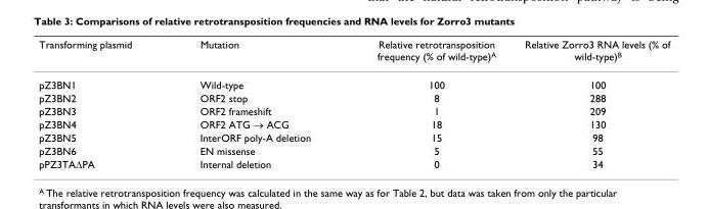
<table><thead><tr><td>Transforming plasmid</td><td>Mutation</td><td>Relative retrotransposition frequency (% of wild-type)<sup>A</sup></td><td>Relative Zorro3 RNA levels (% of wild-type)<sup>B</sup></td></tr></thead><tbody><tr><td>pZ3BN1</td><td>Wild-type</td><td>100</td><td>100</td></tr><tr><td>pZ3BN2</td><td>ORF2 stop</td><td>8</td><td>288</td></tr><tr><td>pZ3BN3</td><td>ORF2 frameshift</td><td>1</td><td>209</td></tr><tr><td>pZ3BN4</td><td>ORF2 ATG → ACG</td><td>18</td><td>130</td></tr><tr><td>pZ3BN5</td><td>InterORF poly-A deletion</td><td>15</td><td>98</td></tr><tr><td>pZ3BN6</td><td>EN missense</td><td>5</td><td>55</td></tr><tr><td>pPZ3TAΔPA</td><td>Internal deletion</td><td>0</td><td>34</td></tr></tbody></table>